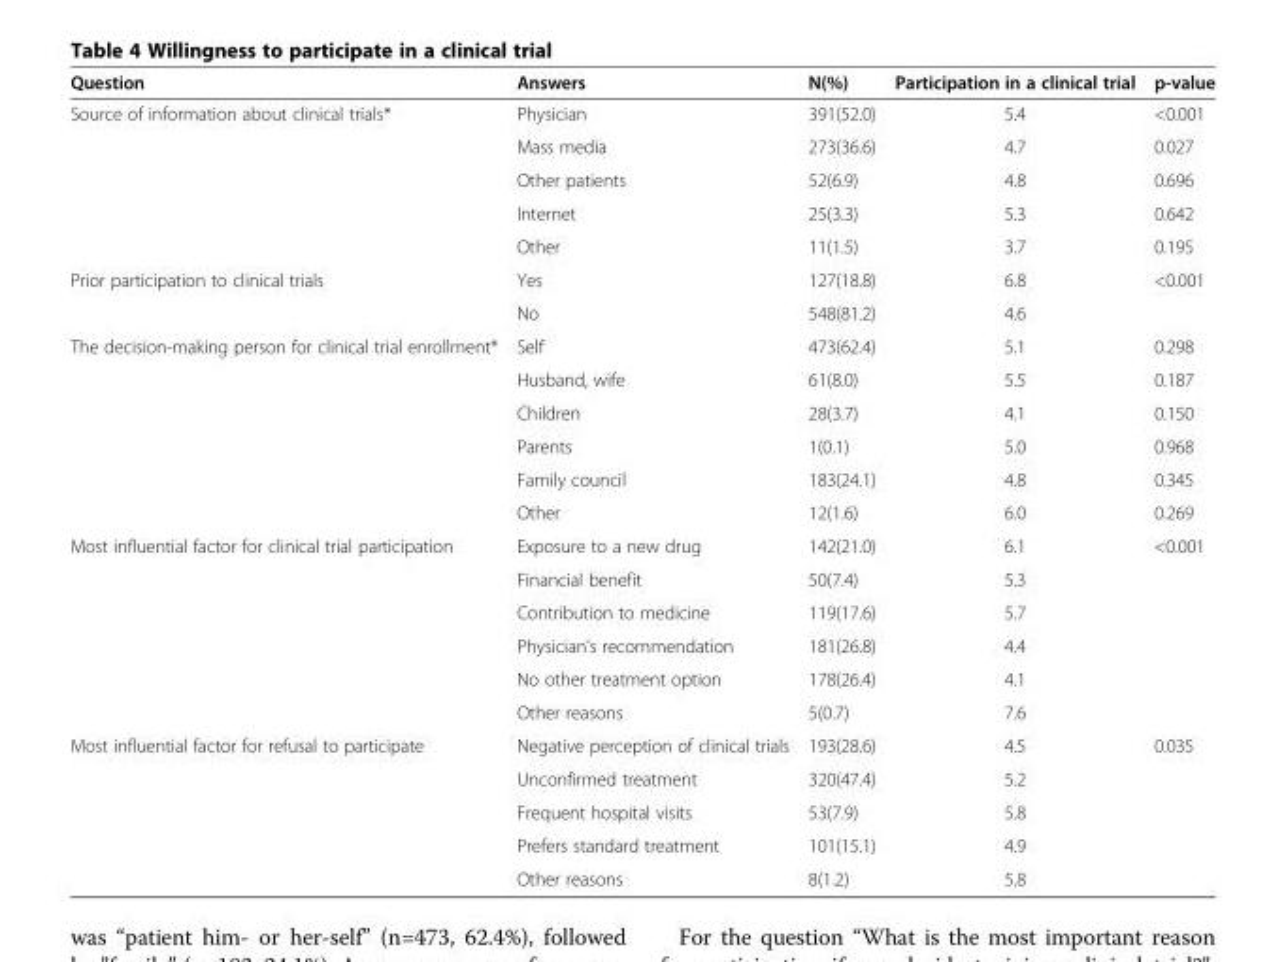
<table><thead><tr><td>Question</td><td>Answers</td><td>N(%)</td><td>Participation in a clinical trial</td><td>p-value</td></tr></thead><tbody><tr><td rowspan="5">Source of information about clinical trials*</td><td>Physician</td><td>391(52.0)</td><td>5.4</td><td>&lt;0.001</td></tr><tr><td>Mass media</td><td>273(36.6)</td><td>4.7</td><td>0.027</td></tr><tr><td>Other patients</td><td>52(6.9)</td><td>4.8</td><td>0.696</td></tr><tr><td>Internet</td><td>25(3.3)</td><td>5.3</td><td>0.642</td></tr><tr><td>Other</td><td>11(1.5)</td><td>3.7</td><td>0.195</td></tr><tr><td rowspan="2">Prior participation to clinical trials</td><td>Yes</td><td>127(18.8)</td><td>6.8</td><td>&lt;0.001</td></tr><tr><td>No</td><td>548(81.2)</td><td>4.6</td><td></td></tr><tr><td rowspan="6">The decision-making person for clinical trial enrollment*</td><td>Self</td><td>473(62.4)</td><td>5.1</td><td>0.298</td></tr><tr><td>Husband, wife</td><td>61(8.0)</td><td>5.5</td><td>0.187</td></tr><tr><td>Children</td><td>28(3.7)</td><td>4.1</td><td>0.150</td></tr><tr><td>Parents</td><td>1(0.1)</td><td>5.0</td><td>0.968</td></tr><tr><td>Family council</td><td>183(24.1)</td><td>4.8</td><td>0.345</td></tr><tr><td>Other</td><td>12(1.6)</td><td>6.0</td><td>0.269</td></tr><tr><td rowspan="6">Most influential factor for clinical trial participation</td><td>Exposure to a new drug</td><td>142(21.0)</td><td>6.1</td><td>&lt;0.001</td></tr><tr><td>Financial benefit</td><td>50(7.4)</td><td>5.3</td><td rowspan="5"></td></tr><tr><td>Contribution to medicine</td><td>119(17.6)</td><td>5.7</td></tr><tr><td>Physician’s recommendation</td><td>181(26.8)</td><td>4.4</td></tr><tr><td>No other treatment option</td><td>178(26.4)</td><td>4.1</td></tr><tr><td>Other reasons</td><td>5(0.7)</td><td>7.6</td></tr><tr><td rowspan="5">Most influential factor for refusal to participate</td><td>Negative perception of clinical trials</td><td>193(28.6)</td><td>4.5</td><td>0.035</td></tr><tr><td>Unconfirmed treatment</td><td>320(47.4)</td><td>5.2</td><td rowspan="4"></td></tr><tr><td>Frequent hospital visits</td><td>53(7.9)</td><td>5.8</td></tr><tr><td>Prefers standard treatment</td><td>101(15.1)</td><td>4.9</td></tr><tr><td>Other reasons</td><td>8(1.2)</td><td>5.8</td></tr></tbody></table>